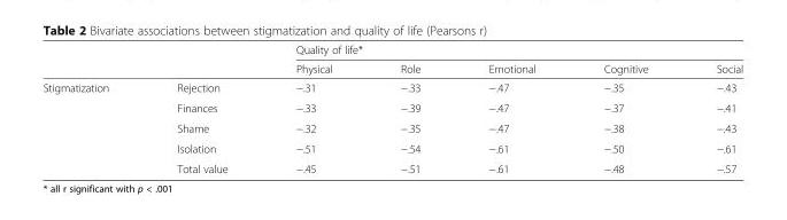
<table><thead><tr><td rowspan="2"></td><td rowspan="2"></td><td colspan="5">Quality of life*</td></tr><tr><td>Physical</td><td>Role</td><td>Emotional</td><td>Cognitive</td><td>Social</td></tr></thead><tbody><tr><td rowspan="5">Stigmatization</td><td>Rejection</td><td>−.31</td><td>−.33</td><td>−.47</td><td>−.35</td><td>−.43</td></tr><tr><td>Finances</td><td>−.33</td><td>−.39</td><td>−.47</td><td>−.37</td><td>−.41</td></tr><tr><td>Shame</td><td>−.32</td><td>−.35</td><td>−.47</td><td>−.38</td><td>−.43</td></tr><tr><td>Isolation</td><td>−.51</td><td>−.54</td><td>−.61</td><td>−.50</td><td>−.61</td></tr><tr><td>Total value</td><td>−.45</td><td>−.51</td><td>−.61</td><td>−.48</td><td>−.57</td></tr></tbody></table>